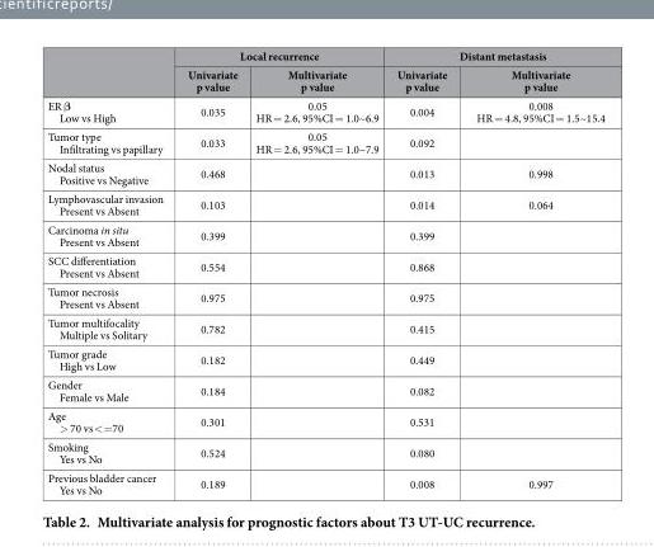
<table><thead><tr><td rowspan="2"></td><td colspan="2">Local recurrence</td><td colspan="2">Distant metastasis</td></tr><tr><td>Univariate p value</td><td>Multivariate p value</td><td>Univariate p value</td><td>Multivariate p value</td></tr></thead><tbody><tr><td>ER β Low vs High</td><td>0.035</td><td>0.05 HR = 2.6, 95%CI = 1.0~6.9</td><td>0.004</td><td>0.008 HR = 4.8, 95%CI = 1.5~15.4</td></tr><tr><td>Tumor type Infiltrating vs papillary</td><td>0.033</td><td>0.05 HR = 2.6, 95%CI = 1.0~7.9</td><td>0.092</td><td></td></tr><tr><td>Nodal status Positive vs Negative</td><td>0.468</td><td></td><td>0.013</td><td>0.998</td></tr><tr><td>Lymphovascular invasion Present vs Absent</td><td>0.103</td><td></td><td>0.014</td><td>0.064</td></tr><tr><td>Carcinoma in situ Present vs Absent</td><td>0.399</td><td></td><td>0.399</td><td></td></tr><tr><td>SCC differentiation Present vs Absent</td><td>0.554</td><td></td><td>0.868</td><td></td></tr><tr><td>Tumor necrosis Present vs Absent</td><td>0.975</td><td></td><td>0.975</td><td></td></tr><tr><td>Tumor multifocality Multiple vs Solitary</td><td>0.782</td><td></td><td>0.415</td><td></td></tr><tr><td>Tumor grade High vs Low</td><td>0.182</td><td></td><td>0.449</td><td></td></tr><tr><td>Gender Female vs Male</td><td>0.184</td><td></td><td>0.082</td><td></td></tr><tr><td>Age &gt; 70 vs &lt; =70</td><td>0.301</td><td></td><td>0.531</td><td></td></tr><tr><td>Smoking Yes vs No</td><td>0.524</td><td></td><td>0.080</td><td></td></tr><tr><td>Previous bladder cancer Yes vs No</td><td>0.189</td><td></td><td>0.008</td><td>0.997</td></tr></tbody></table>